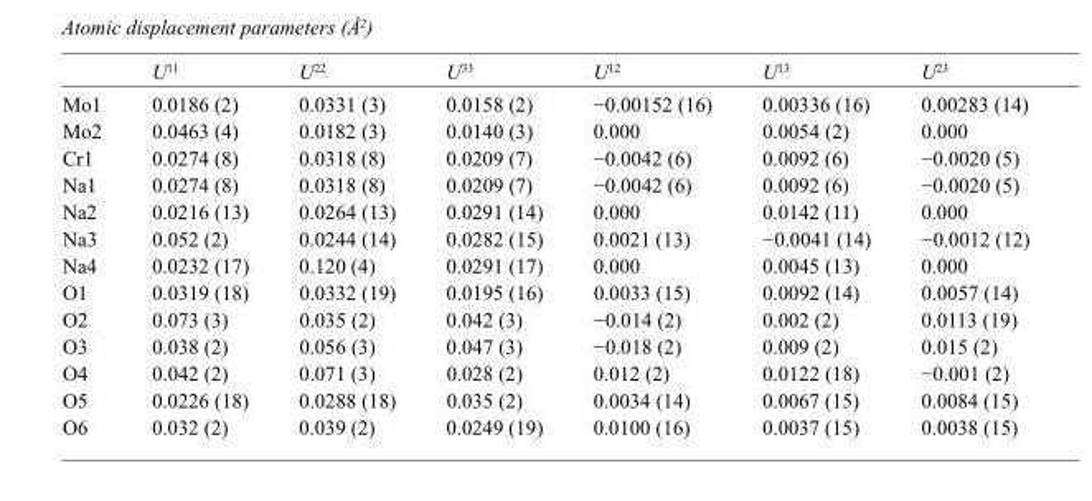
<table><thead><tr><td></td><td>U<sup>11</sup></td><td>U<sup>22</sup></td><td>U<sup>33</sup></td><td>U<sup>12</sup></td><td>U<sup>13</sup></td><td>U<sup>23</sup></td></tr></thead><tbody><tr><td>Mo1</td><td>0.0186 (2)</td><td>0.0331 (3)</td><td>0.0158 (2)</td><td>−0.00152 (16)</td><td>0.00336 (16)</td><td>0.00283 (14)</td></tr><tr><td>Mo2</td><td>0.0463 (4)</td><td>0.0182 (3)</td><td>0.0140 (3)</td><td>0.000</td><td>0.0054 (2)</td><td>0.000</td></tr><tr><td>Cr1</td><td>0.0274 (8)</td><td>0.0318 (8)</td><td>0.0209 (7)</td><td>−0.0042 (6)</td><td>0.0092 (6)</td><td>−0.0020 (5)</td></tr><tr><td>Na1</td><td>0.0274 (8)</td><td>0.0318 (8)</td><td>0.0209 (7)</td><td>−0.0042 (6)</td><td>0.0092 (6)</td><td>−0.0020 (5)</td></tr><tr><td>Na2</td><td>0.0216 (13)</td><td>0.0264 (13)</td><td>0.0291 (14)</td><td>0.000</td><td>0.0142 (11)</td><td>0.000</td></tr><tr><td>Na3</td><td>0.052 (2)</td><td>0.0244 (14)</td><td>0.0282 (15)</td><td>0.0021 (13)</td><td>−0.0041 (14)</td><td>−0.0012 (12)</td></tr><tr><td>Na4</td><td>0.0232 (17)</td><td>0.120 (4)</td><td>0.0291 (17)</td><td>0.000</td><td>0.0045 (13)</td><td>0.000</td></tr><tr><td>O1</td><td>0.0319 (18)</td><td>0.0332 (19)</td><td>0.0195 (16)</td><td>0.0033 (15)</td><td>0.0092 (14)</td><td>0.0057 (14)</td></tr><tr><td>O2</td><td>0.073 (3)</td><td>0.035 (2)</td><td>0.042 (3)</td><td>−0.014 (2)</td><td>0.002 (2)</td><td>0.0113 (19)</td></tr><tr><td>O3</td><td>0.038 (2)</td><td>0.056 (3)</td><td>0.047 (3)</td><td>−0.018 (2)</td><td>0.009 (2)</td><td>0.015 (2)</td></tr><tr><td>O4</td><td>0.042 (2)</td><td>0.071 (3)</td><td>0.028 (2)</td><td>0.012 (2)</td><td>0.0122 (18)</td><td>−0.001 (2)</td></tr><tr><td>O5</td><td>0.0226 (18)</td><td>0.0288 (18)</td><td>0.035 (2)</td><td>0.0034 (14)</td><td>0.0067 (15)</td><td>0.0084 (15)</td></tr><tr><td>O6</td><td>0.032 (2)</td><td>0.039 (2)</td><td>0.0249 (19)</td><td>0.0100 (16)</td><td>0.0037 (15)</td><td>0.0038 (15)</td></tr></tbody></table>